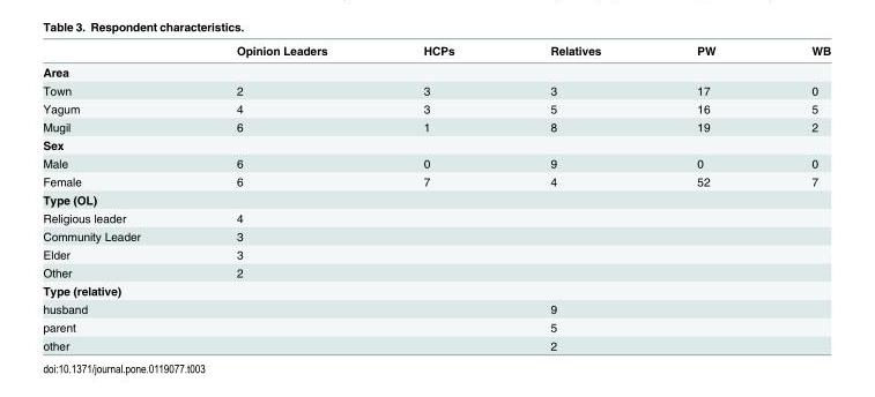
<table><thead><tr><td></td><td>Opinion Leaders</td><td>HCPs</td><td>Relatives</td><td>PW</td><td>WB</td></tr></thead><tbody><tr><td colspan="6">Area</td></tr><tr><td>Town</td><td>2</td><td>3</td><td>3</td><td>17</td><td>0</td></tr><tr><td>Yagum</td><td>4</td><td>3</td><td>5</td><td>16</td><td>5</td></tr><tr><td>Mugil</td><td>6</td><td>1</td><td>8</td><td>19</td><td>2</td></tr><tr><td colspan="6">Sex</td></tr><tr><td>Male</td><td>6</td><td>0</td><td>9</td><td>0</td><td>0</td></tr><tr><td>Female</td><td>6</td><td>7</td><td>4</td><td>52</td><td>7</td></tr><tr><td colspan="6">Type (OL)</td></tr><tr><td>Religious leader</td><td>4</td><td></td><td></td><td></td><td></td></tr><tr><td>Community Leader</td><td>3</td><td></td><td></td><td></td><td></td></tr><tr><td>Elder</td><td>3</td><td></td><td></td><td></td><td></td></tr><tr><td>Other</td><td>2</td><td></td><td></td><td></td><td></td></tr><tr><td colspan="6">Type (relative)</td></tr><tr><td>husband</td><td></td><td></td><td>9</td><td></td><td></td></tr><tr><td>parent</td><td></td><td></td><td>5</td><td></td><td></td></tr><tr><td>other</td><td></td><td></td><td>2</td><td></td><td></td></tr></tbody></table>